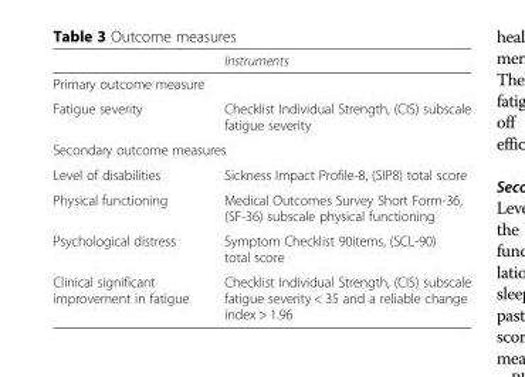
<table><thead><tr><td></td><td>Instruments</td></tr></thead><tbody><tr><td colspan="2">Primary outcome measure</td></tr><tr><td>Fatigue severity</td><td>Checklist Individual Strength, (CIS) subscale fatigue severity</td></tr><tr><td colspan="2">Secondary outcome measures</td></tr><tr><td>Level of disabilities</td><td>Sickness Impact Profile-8, (SIP8) total score</td></tr><tr><td>Physical functioning</td><td>Medical Outcomes Survey Short Form-36, (SF-36) subscale physical functioning</td></tr><tr><td>Psychological distress</td><td>Symptom Checklist 90items, (SCL-90) total score</td></tr><tr><td>Clinical significant improvement in fatigue</td><td>Checklist Individual Strength, (CIS) subscale fatigue severity &lt; 35 and a reliable change index &gt; 1.96</td></tr></tbody></table>